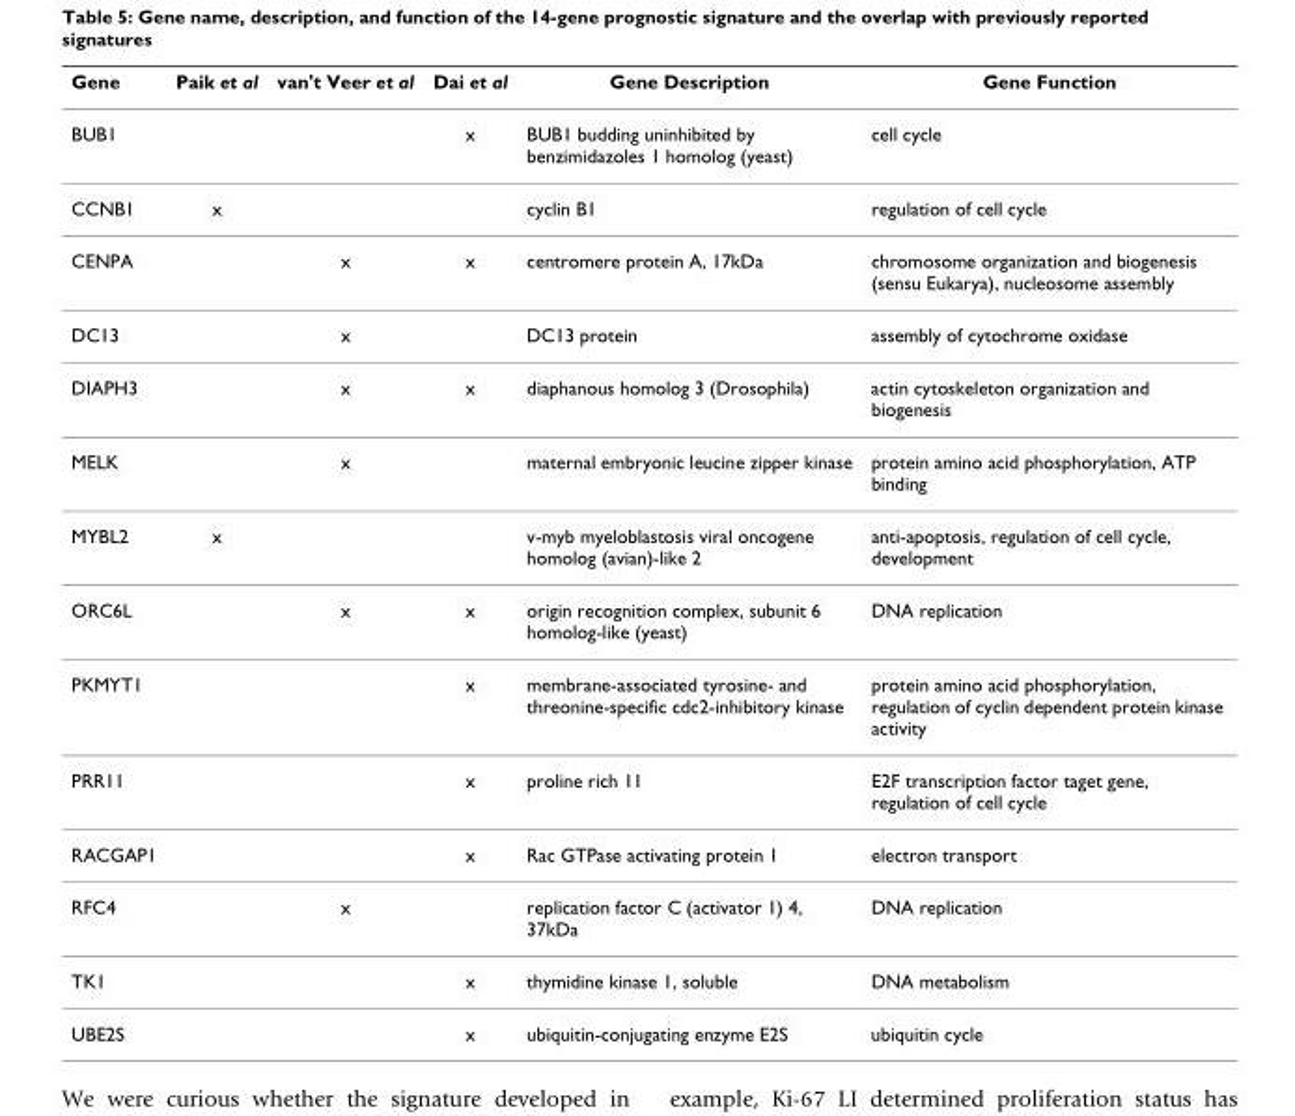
<table><thead><tr><td>Gene</td><td>Paik et al</td><td>van&#x27;t Veer et al</td><td>Dai et al</td><td>Gene Description</td><td>Gene Function</td></tr></thead><tbody><tr><td>BUB1</td><td></td><td></td><td>x</td><td>BUB1 budding uninhibited by benzimidazoles 1 homolog (yeast)</td><td>cell cycle</td></tr><tr><td>CCNB1</td><td>x</td><td></td><td></td><td>cyclin B1</td><td>regulation of cell cycle</td></tr><tr><td>CENPA</td><td></td><td>x</td><td>x</td><td>centromere protein A, 17kDa</td><td>chromosome organization and biogenesis (sensu Eukarya), nucleosome assembly</td></tr><tr><td>DC13</td><td></td><td>x</td><td></td><td>DC13 protein</td><td>assembly of cytochrome oxidase</td></tr><tr><td>DIAPH3</td><td></td><td>x</td><td>x</td><td>diaphanous homolog 3 (Drosophila)</td><td>actin cytoskeleton organization and biogenesis</td></tr><tr><td>MELK</td><td></td><td>x</td><td></td><td>maternal embryonic leucine zipper kinase</td><td>protein amino acid phosphorylation, ATP binding</td></tr><tr><td>MYBL2</td><td>x</td><td></td><td></td><td>v-myb myeloblastosis viral oncogene homolog (avian)-like 2</td><td>anti-apoptosis, regulation of cell cycle, development</td></tr><tr><td>ORC6L</td><td></td><td>x</td><td>x</td><td>origin recognition complex, subunit 6 homolog-like (yeast)</td><td>DNA replication</td></tr><tr><td>PKMYT1</td><td></td><td></td><td>x</td><td>membrane-associated tyrosine- and threonine-specific cdc2-inhibitory kinase</td><td>protein amino acid phosphorylation, regulation of cyclin dependent protein kinase activity</td></tr><tr><td>PRR11</td><td></td><td></td><td>x</td><td>proline rich 11</td><td>E2F transcription factor taget gene, regulation of cell cycle</td></tr><tr><td>RACGAP1</td><td></td><td></td><td>x</td><td>Rac GTPase activating protein 1</td><td>electron transport</td></tr><tr><td>RFC4</td><td></td><td>x</td><td></td><td>replication factor C (activator 1) 4, 37kDa</td><td>DNA replication</td></tr><tr><td>TK1</td><td></td><td></td><td>x</td><td>thymidine kinase 1, soluble</td><td>DNA metabolism</td></tr><tr><td>UBE2S</td><td></td><td></td><td>x</td><td>ubiquitin-conjugating enzyme E2S</td><td>ubiquitin cycle</td></tr></tbody></table>